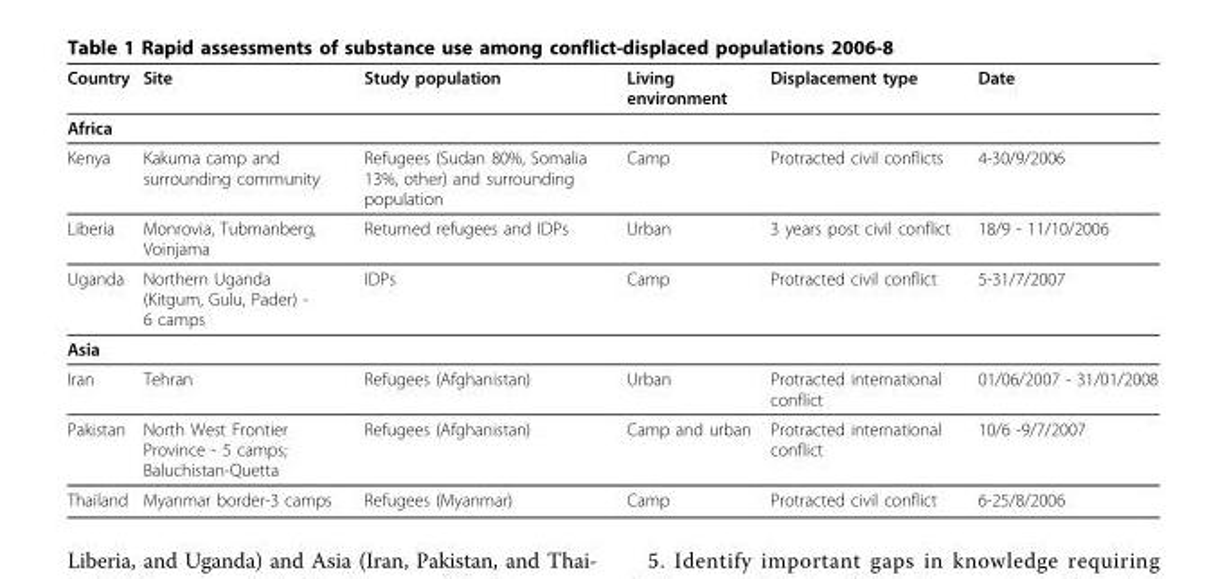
<table><thead><tr><td>Country</td><td>Site</td><td>Study population</td><td>Living environment</td><td>Displacement type</td><td>Date</td></tr></thead><tbody><tr><td colspan="6">Africa</td></tr><tr><td>Kenya</td><td>Kakuma camp and surrounding community</td><td>Refugees (Sudan 80%, Somalia 13%, other) and surrounding population</td><td>Camp</td><td>Protracted civil conflicts</td><td>4-30/9/2006</td></tr><tr><td>Liberia</td><td>Monrovia, Tubmanberg, Voinjama</td><td>Returned refugees and IDPs</td><td>Urban</td><td>3 years post civil conflict</td><td>18/9 - 11/10/2006</td></tr><tr><td>Uganda</td><td>Northern Uganda (Kitgum, Gulu, Pader) - 6 camps</td><td>IDPs</td><td>Camp</td><td>Protracted civil conflict</td><td>5-31/7/2007</td></tr><tr><td colspan="6">Asia</td></tr><tr><td>Iran</td><td>Tehran</td><td>Refugees (Afghanistan)</td><td>Urban</td><td>Protracted international conflict</td><td>01/06/2007 - 31/01/2008</td></tr><tr><td>Pakistan</td><td>North West Frontier Province - 5 camps; Baluchistan-Quetta</td><td>Refugees (Afghanistan)</td><td>Camp and urban</td><td>Protracted international conflict</td><td>10/6 -9/7/2007</td></tr><tr><td>Thailand</td><td>Myanmar border-3 camps</td><td>Refugees (Myanmar)</td><td>Camp</td><td>Protracted civil conflict</td><td>6-25/8/2006</td></tr></tbody></table>